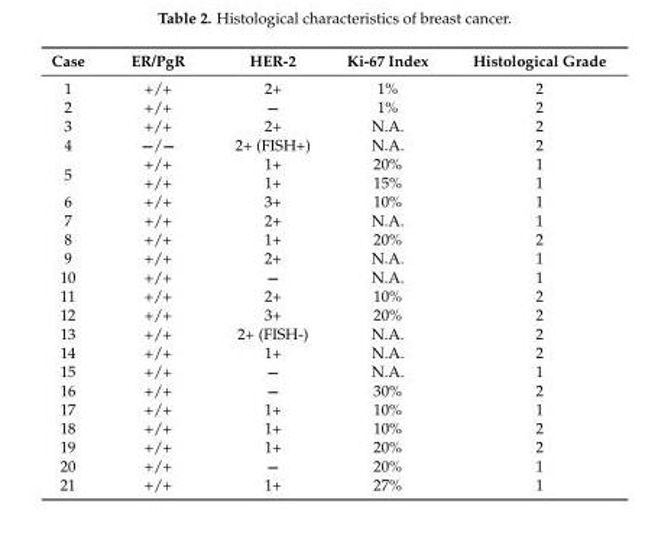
<table><thead><tr><td>Case</td><td>ER/PgR</td><td>HER-2</td><td>Ki-67 Index</td><td>Histological Grade</td></tr></thead><tbody><tr><td>1</td><td>+/+</td><td>2+</td><td>1%</td><td>2</td></tr><tr><td>2</td><td>+/+</td><td>−</td><td>1%</td><td>2</td></tr><tr><td>3</td><td>+/+</td><td>2+</td><td>N.A.</td><td>2</td></tr><tr><td>4</td><td>−/−</td><td>2+ (FISH+)</td><td>N.A.</td><td>2</td></tr><tr><td rowspan="2">5</td><td>+/+</td><td>1+</td><td>20%</td><td>1</td></tr><tr><td>+/+</td><td>1+</td><td>15%</td><td>1</td></tr><tr><td>6</td><td>+/+</td><td>3+</td><td>10%</td><td>1</td></tr><tr><td>7</td><td>+/+</td><td>2+</td><td>N.A.</td><td>1</td></tr><tr><td>8</td><td>+/+</td><td>1+</td><td>20%</td><td>2</td></tr><tr><td>9</td><td>+/+</td><td>2+</td><td>N.A.</td><td>1</td></tr><tr><td>10</td><td>+/+</td><td>−</td><td>N.A.</td><td>1</td></tr><tr><td>11</td><td>+/+</td><td>2+</td><td>10%</td><td>2</td></tr><tr><td>12</td><td>+/+</td><td>3+</td><td>20%</td><td>2</td></tr><tr><td>13</td><td>+/+</td><td>2+ (FISH-)</td><td>N.A.</td><td>2</td></tr><tr><td>14</td><td>+/+</td><td>1+</td><td>N.A.</td><td>2</td></tr><tr><td>15</td><td>+/+</td><td>−</td><td>N.A.</td><td>1</td></tr><tr><td>16</td><td>+/+</td><td>−</td><td>30%</td><td>2</td></tr><tr><td>17</td><td>+/+</td><td>1+</td><td>10%</td><td>1</td></tr><tr><td>18</td><td>+/+</td><td>1+</td><td>10%</td><td>2</td></tr><tr><td>19</td><td>+/+</td><td>1+</td><td>20%</td><td>2</td></tr><tr><td>20</td><td>+/+</td><td>−</td><td>20%</td><td>1</td></tr><tr><td>21</td><td>+/+</td><td>1+</td><td>27%</td><td>1</td></tr></tbody></table>